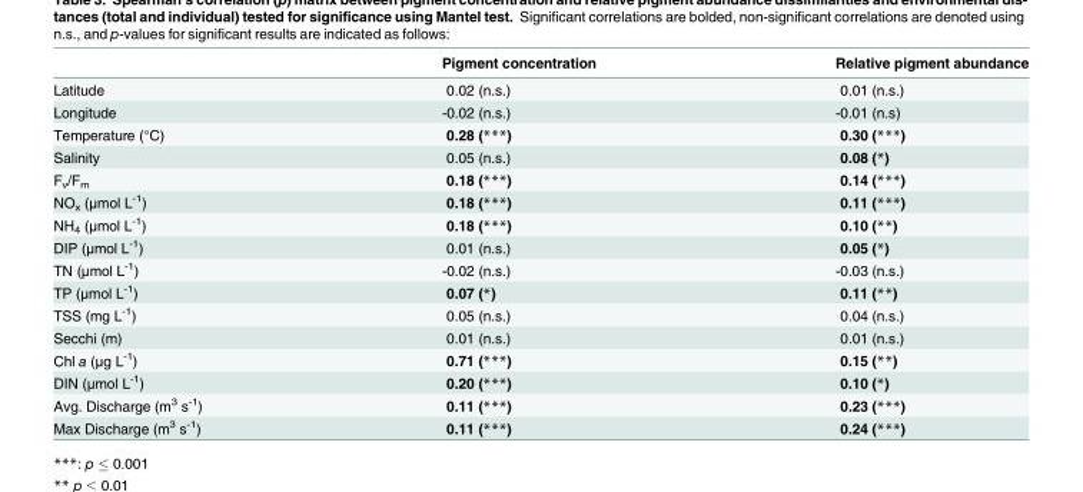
<table><thead><tr><td></td><td>Pigment concentration</td><td>Relative pigment abundance</td></tr></thead><tbody><tr><td>Latitude</td><td>0.02 (n.s.)</td><td>0.01 (n.s.)</td></tr><tr><td>Longitude</td><td>-0.02 (n.s.)</td><td>-0.01 (n.s)</td></tr><tr><td>Temperature (°C)</td><td>0.28 (***)</td><td>0.30 (***)</td></tr><tr><td>Salinity</td><td>0.05 (n.s.)</td><td>0.08 (*)</td></tr><tr><td>F<sub>v</sub>/F<sub>m</sub></td><td>0.18 (***)</td><td>0.14 (***)</td></tr><tr><td>NO<sub>x</sub> (μmol L<sup>-1</sup>)</td><td>0.18 (***)</td><td>0.11 (***)</td></tr><tr><td>NH<sub>4</sub> (µmol L<sup>-1</sup>)</td><td>0.18 (***)</td><td>0.10 (**)</td></tr><tr><td>DIP (μmol L<sup>-1</sup>)</td><td>0.01 (n.s.)</td><td>0.05 (*)</td></tr><tr><td>TN (μmol L<sup>-1</sup>)</td><td>-0.02 (n.s.)</td><td>-0.03 (n.s.)</td></tr><tr><td>TP (μmol L<sup>-1</sup>)</td><td>0.07 (*)</td><td>0.11 (**)</td></tr><tr><td>TSS (mg L<sup>-1</sup>)</td><td>0.05 (n.s.)</td><td>0.04 (n.s.)</td></tr><tr><td>Secchi (m)</td><td>0.01 (n.s.)</td><td>0.01 (n.s.)</td></tr><tr><td>Chl a (μg L<sup>-1</sup>)</td><td>0.71 (***)</td><td>0.15 (**)</td></tr><tr><td>DIN (μmol L<sup>-1</sup>)</td><td>0.20 (***)</td><td>0.10 (*)</td></tr><tr><td>Avg. Discharge (m<sup>3</sup> s<sup>-1</sup>)</td><td>0.11 (***)</td><td>0.23 (***)</td></tr><tr><td>Max Discharge (m<sup>3</sup> s<sup>-1</sup>)</td><td>0.11 (***)</td><td>0.24 (***)</td></tr></tbody></table>